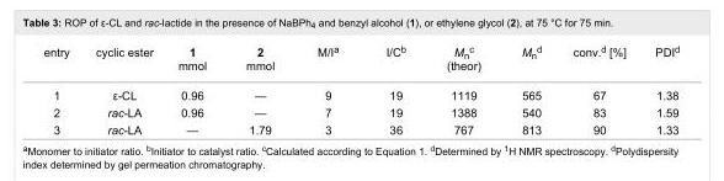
<table><tbody><tr><td>entry</td><td>cyclic ester</td><td>1 mmol</td><td>2 mmol</td><td>M/I<sup>a</sup></td><td>I/C<sup>b</sup></td><td>M<sub>n</sub><sup>c</sup> (theor)</td><td>M<sub>n</sub><sup>d</sup></td><td>conv.<sup>d</sup> [%]</td><td>PDI<sup>d</sup></td></tr><tr><td>1</td><td>ε-CL</td><td>0.96</td><td>—</td><td>9</td><td>19</td><td>1119</td><td>565</td><td>67</td><td>1.38</td></tr><tr><td>2</td><td>rac-LA</td><td>0.96</td><td>—</td><td>7</td><td>19</td><td>1388</td><td>540</td><td>83</td><td>1.59</td></tr><tr><td>3</td><td>rac-LA</td><td>—</td><td>1.79</td><td>3</td><td>36</td><td>767</td><td>813</td><td>90</td><td>1.33</td></tr></tbody></table>